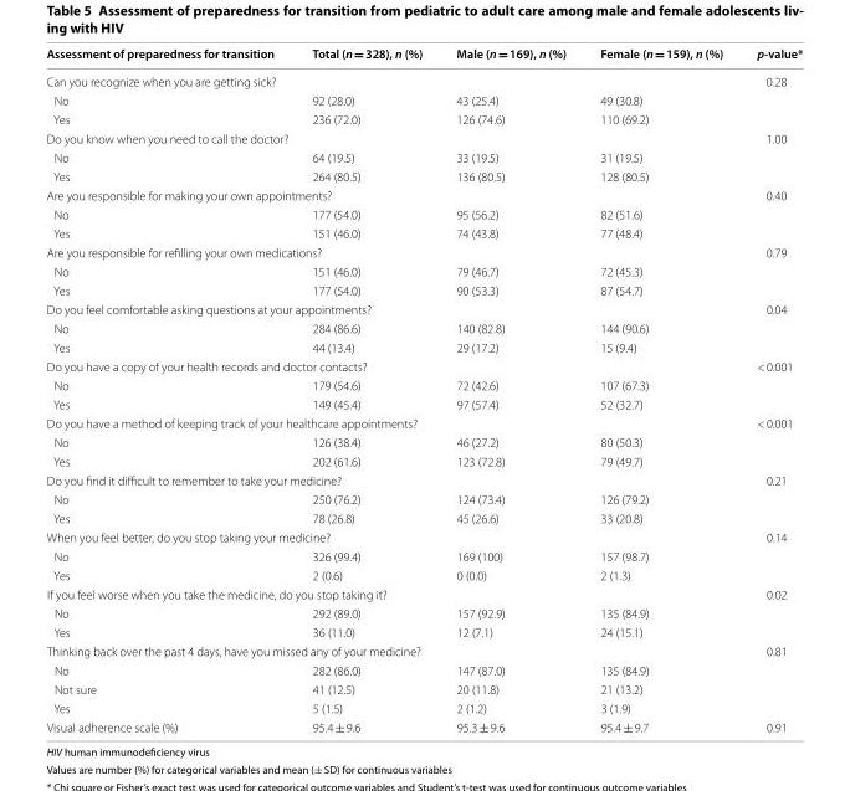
<table><thead><tr><td>Assessment of preparedness for transition</td><td>Total (n = 328), n (%)</td><td>Male (n = 169), n (%)</td><td>Female (n = 159), n (%)</td><td>p-value*</td></tr></thead><tbody><tr><td colspan="4">Can you recognize when you are getting sick?</td><td>0.28</td></tr><tr><td>No</td><td>92 (28.0)</td><td>43 (25.4)</td><td>49 (30.8)</td><td></td></tr><tr><td>Yes</td><td>236 (72.0)</td><td>126 (74.6)</td><td>110 (69.2)</td><td></td></tr><tr><td colspan="4">Do you know when you need to call the doctor?</td><td>1.00</td></tr><tr><td>No</td><td>64 (19.5)</td><td>33 (19.5)</td><td>31 (19.5)</td><td></td></tr><tr><td>Yes</td><td>264 (80.5)</td><td>136 (80.5)</td><td>128 (80.5)</td><td></td></tr><tr><td colspan="4">Are you responsible for making your own appointments?</td><td>0.40</td></tr><tr><td>No</td><td>177 (54.0)</td><td>95 (56.2)</td><td>82 (51.6)</td><td></td></tr><tr><td>Yes</td><td>151 (46.0)</td><td>74 (43.8)</td><td>77 (48.4)</td><td></td></tr><tr><td colspan="4">Are you responsible for refilling your own medications?</td><td>0.79</td></tr><tr><td>No</td><td>151 (46.0)</td><td>79 (46.7)</td><td>72 (45.3)</td><td></td></tr><tr><td>Yes</td><td>177 (54.0)</td><td>90 (53.3)</td><td>87 (54.7)</td><td></td></tr><tr><td colspan="4">Do you feel comfortable asking questions at your appointments?</td><td>0.04</td></tr><tr><td>No</td><td>284 (86.6)</td><td>140 (82.8)</td><td>144 (90.6)</td><td></td></tr><tr><td>Yes</td><td>44 (13.4)</td><td>29 (17.2)</td><td>15 (9.4)</td><td></td></tr><tr><td colspan="4">Do you have a copy of your health records and doctor contacts?</td><td>&lt; 0.001</td></tr><tr><td>No</td><td>179 (54.6)</td><td>72 (42.6)</td><td>107 (67.3)</td><td></td></tr><tr><td>Yes</td><td>149 (45.4)</td><td>97 (57.4)</td><td>52 (32.7)</td><td></td></tr><tr><td colspan="4">Do you have a method of keeping track of your healthcare appointments?</td><td>&lt; 0.001</td></tr><tr><td>No</td><td>126 (38.4)</td><td>46 (27.2)</td><td>80 (50.3)</td><td></td></tr><tr><td>Yes</td><td>202 (61.6)</td><td>123 (72.8)</td><td>79 (49.7)</td><td></td></tr><tr><td colspan="4">Do you find it difficult to remember to take your medicine?</td><td>0.21</td></tr><tr><td>No</td><td>250 (76.2)</td><td>124 (73.4)</td><td>126 (79.2)</td><td></td></tr><tr><td>Yes</td><td>78 (26.8)</td><td>45 (26.6)</td><td>33 (20.8)</td><td></td></tr><tr><td colspan="4">When you feel better, do you stop taking your medicine?</td><td>0.14</td></tr><tr><td>No</td><td>326 (99.4)</td><td>169 (100)</td><td>157 (98.7)</td><td></td></tr><tr><td>Yes</td><td>2 (0.6)</td><td>0 (0.0)</td><td>2 (1.3)</td><td></td></tr><tr><td colspan="4">If you feel worse when you take the medicine, do you stop taking it?</td><td>0.02</td></tr><tr><td>No</td><td>292 (89.0)</td><td>157 (92.9)</td><td>135 (84.9)</td><td></td></tr><tr><td>Yes</td><td>36 (11.0)</td><td>12 (7.1)</td><td>24 (15.1)</td><td></td></tr><tr><td colspan="4">Thinking back over the past 4 days, have you missed any of your medicine?</td><td>0.81</td></tr><tr><td>No</td><td>282 (86.0)</td><td>147 (87.0)</td><td>135 (84.9)</td><td></td></tr><tr><td>Not sure</td><td>41 (12.5)</td><td>20 (11.8)</td><td>21 (13.2)</td><td></td></tr><tr><td>Yes</td><td>5 (1.5)</td><td>2 (1.2)</td><td>3 (1.9)</td><td></td></tr><tr><td>Visual adherence scale (%)</td><td>95.4 ± 9.6</td><td>95.3 ± 9.6</td><td>95.4 ± 9.7</td><td>0.91</td></tr></tbody></table>